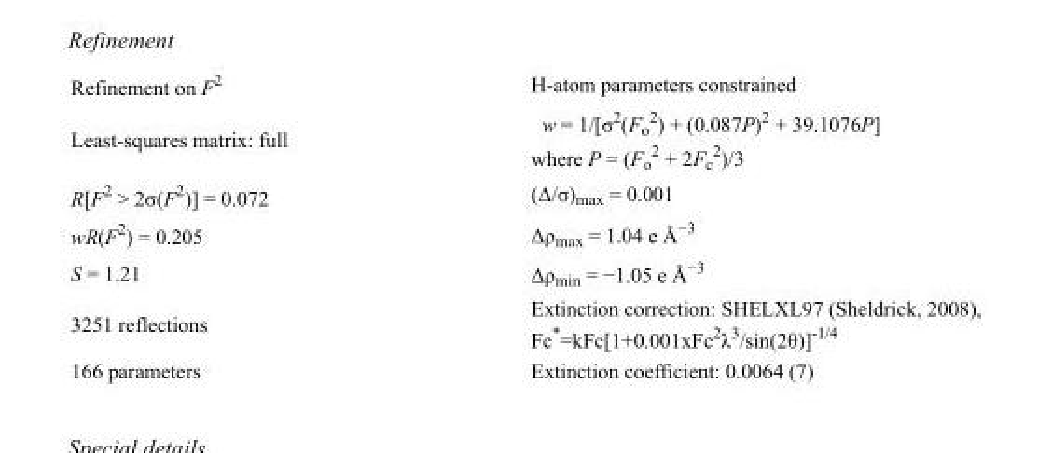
<table><tbody><tr><td>Refinement on F<sup>2</sup></td><td>H-atom parameters constrained</td></tr><tr><td>Least-squares matrix: full</td><td>w = 1/[σ<sup>2</sup>(F<sub>o</sub> <sup>2</sup>) + (0.087P)<sup>2</sup> + 39.1076P] where P = (F<sub>o</sub> <sup>2</sup> + 2F<sub>c</sub> <sup>2</sup>)/3</td></tr><tr><td>R[F<sup>2</sup> &gt; 2σ(F<sup>2</sup>)] = 0.072</td><td>(Δ/σ)<sub>max</sub> = 0.001</td></tr><tr><td>wR(F<sup>2</sup>) = 0.205</td><td>Δρ<sub>max</sub> = 1.04 e Å<sup>−3</sup></td></tr><tr><td>S = 1.21</td><td>Δρ<sub>min</sub> = −1.05 e Å<sup>−3</sup></td></tr><tr><td>3251 reflections</td><td>Extinction correction: SHELXL97 (Sheldrick, 2008), Fc*=kFc[1+0.001xFc<sup>2</sup>λ<sup>3</sup>/sin(2θ)]<sup>-1/4</sup></td></tr><tr><td>166 parameters</td><td>Extinction coefficient: 0.0064 (7)</td></tr></tbody></table>